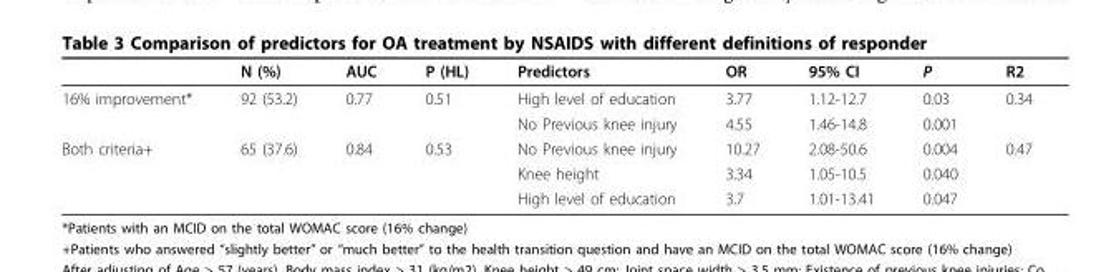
<table><thead><tr><td></td><td>N (%)</td><td>AUC</td><td>P (HL)</td><td>Predictors</td><td>OR</td><td>95% CI</td><td>P</td><td>R2</td></tr></thead><tbody><tr><td rowspan="2">16% improvement*</td><td>92 (53.2)</td><td>0.77</td><td>0.51</td><td>High level of education</td><td>3.77</td><td>1.12-12.7</td><td>0.03</td><td>0.34</td></tr><tr><td></td><td></td><td></td><td>No Previous knee injury</td><td>4.55</td><td>1.46-14.8</td><td>0.001</td><td></td></tr><tr><td rowspan="3">Both criteria+</td><td>65 (37.6)</td><td>0.84</td><td>0.53</td><td>No Previous knee injury</td><td>10.27</td><td>2.08-50.6</td><td>0.004</td><td>0.47</td></tr><tr><td></td><td></td><td></td><td>Knee height</td><td>3.34</td><td>1.05-10.5</td><td>0.040</td><td></td></tr><tr><td></td><td></td><td></td><td>High level of education</td><td>3.7</td><td>1.01-13.41</td><td>0.047</td><td></td></tr></tbody></table>